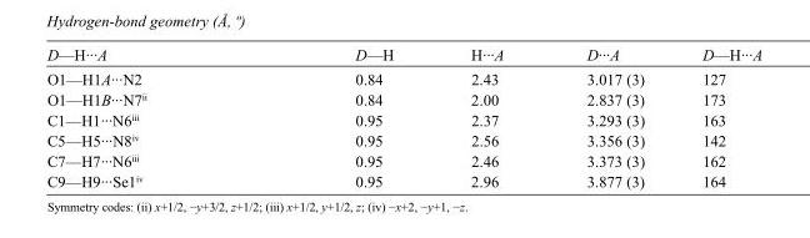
<table><tbody><tr><td>D—H···A</td><td>D—H</td><td>H···A</td><td>D···A</td><td>D—H···A</td></tr><tr><td>O1—H1A···N2</td><td>0.84</td><td>2.43</td><td>3.017 (3)</td><td>127</td></tr><tr><td>O1—H1B···N7<sup>ii</sup></td><td>0.84</td><td>2.00</td><td>2.837 (3)</td><td>173</td></tr><tr><td>C1—H1···N6<sup>iii</sup></td><td>0.95</td><td>2.37</td><td>3.293 (3)</td><td>163</td></tr><tr><td>C5—H5···N8<sup>iv</sup></td><td>0.95</td><td>2.56</td><td>3.356 (3)</td><td>142</td></tr><tr><td>C7—H7···N6<sup>iii</sup></td><td>0.95</td><td>2.46</td><td>3.373 (3)</td><td>162</td></tr><tr><td>C9—H9···Se1<sup>iv</sup></td><td>0.95</td><td>2.96</td><td>3.877 (3)</td><td>164</td></tr></tbody></table>